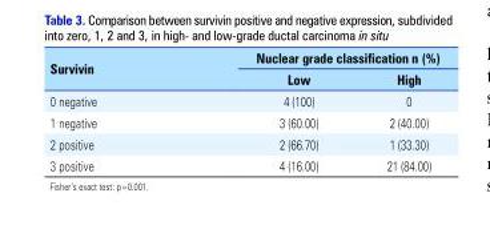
<table><thead><tr><td rowspan="2">Survivin</td><td colspan="2">Nuclear grade classification n (%)</td></tr><tr><td>Low</td><td>High</td></tr></thead><tbody><tr><td>0 negative</td><td>4 (100)</td><td>0</td></tr><tr><td>1 negative</td><td>3 (60.00)</td><td>2 (40.00)</td></tr><tr><td>2 positive</td><td>2 (66.70)</td><td>1 (33.30)</td></tr><tr><td>3 positive</td><td>4 (16.00)</td><td>21 (84.00)</td></tr></tbody></table>